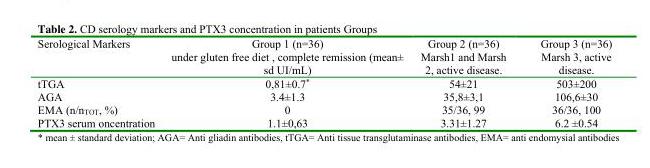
<table><thead><tr><td>Serological Markers</td><td>Group 1 (n=36) under gluten free diet , complete remission (mean± sd UI/mL)</td><td>Group 2 (n=36) Marsh1 and Marsh 2, active disease.</td><td>Group 3 (n=36) Marsh 3, active disease.</td></tr></thead><tbody><tr><td>tTGA</td><td>0,81±0.7*</td><td>54±21</td><td>503±200</td></tr><tr><td>AGA</td><td>3.4±1.3</td><td>35,8±3,1</td><td>106,6±30</td></tr><tr><td>EMA (n/n<sub>TOT</sub>, %)</td><td>0</td><td>35/36, 99</td><td>36/36, 100</td></tr><tr><td>PTX3 serum oncentration</td><td>1.1±0,63</td><td>3.31±1.27</td><td>6.2 ±0.54</td></tr></tbody></table>